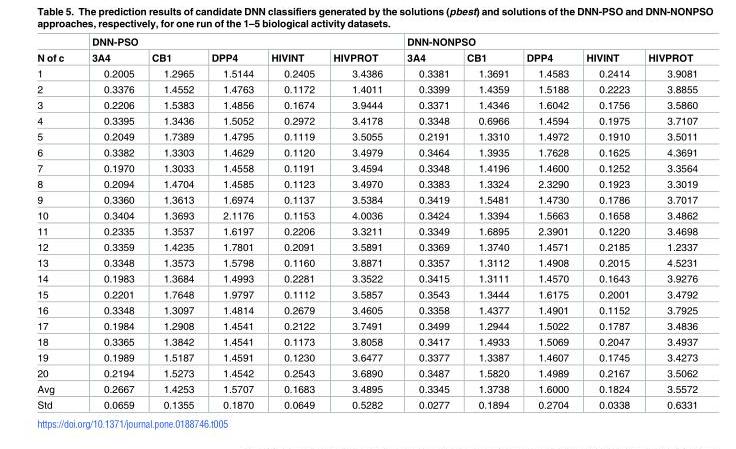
<table><thead><tr><td rowspan="2">N of c</td><td colspan="5">DNN-PSO</td><td colspan="5">DNN-NONPSO</td></tr><tr><td>3A4</td><td>CB1</td><td>DPP4</td><td>HIVINT</td><td>HIVPROT</td><td>3A4</td><td>CB1</td><td>DPP4</td><td>HIVINT</td><td>HIVPROT</td></tr></thead><tbody><tr><td>1</td><td>0.2005</td><td>1.2965</td><td>1.5144</td><td>0.2405</td><td>3.4386</td><td>0.3381</td><td>1.3691</td><td>1.4583</td><td>0.2414</td><td>3.9081</td></tr><tr><td>2</td><td>0.3376</td><td>1.4552</td><td>1.4763</td><td>0.1172</td><td>1.4011</td><td>0.3399</td><td>1.4359</td><td>1.5188</td><td>0.2223</td><td>3.8855</td></tr><tr><td>3</td><td>0.2206</td><td>1.5383</td><td>1.4856</td><td>0.1674</td><td>3.9444</td><td>0.3371</td><td>1.4346</td><td>1.6042</td><td>0.1756</td><td>3.5860</td></tr><tr><td>4</td><td>0.3395</td><td>1.3436</td><td>1.5052</td><td>0.2972</td><td>3.4178</td><td>0.3348</td><td>0.6966</td><td>1.4594</td><td>0.1975</td><td>3.7107</td></tr><tr><td>5</td><td>0.2049</td><td>1.7389</td><td>1.4795</td><td>0.1119</td><td>3.5055</td><td>0.2191</td><td>1.3310</td><td>1.4972</td><td>0.1910</td><td>3.5011</td></tr><tr><td>6</td><td>0.3382</td><td>1.3303</td><td>1.4629</td><td>0.1120</td><td>3.4979</td><td>0.3464</td><td>1.3935</td><td>1.7628</td><td>0.1625</td><td>4.3691</td></tr><tr><td>7</td><td>0.1970</td><td>1.3033</td><td>1.4558</td><td>0.1191</td><td>3.4594</td><td>0.3348</td><td>1.4196</td><td>1.4600</td><td>0.1252</td><td>3.3564</td></tr><tr><td>8</td><td>0.2094</td><td>1.4704</td><td>1.4585</td><td>0.1123</td><td>3.4970</td><td>0.3383</td><td>1.3324</td><td>2.3290</td><td>0.1923</td><td>3.3019</td></tr><tr><td>9</td><td>0.3360</td><td>1.3613</td><td>1.6974</td><td>0.1137</td><td>3.5384</td><td>0.3419</td><td>1.5481</td><td>1.4730</td><td>0.1786</td><td>3.7017</td></tr><tr><td>10</td><td>0.3404</td><td>1.3693</td><td>2.1176</td><td>0.1153</td><td>4.0036</td><td>0.3424</td><td>1.3394</td><td>1.5663</td><td>0.1658</td><td>3.4862</td></tr><tr><td>11</td><td>0.2335</td><td>1.3537</td><td>1.6197</td><td>0.2206</td><td>3.3211</td><td>0.3349</td><td>1.6895</td><td>2.3901</td><td>0.1220</td><td>3.4698</td></tr><tr><td>12</td><td>0.3359</td><td>1.4235</td><td>1.7801</td><td>0.2091</td><td>3.5891</td><td>0.3369</td><td>1.3740</td><td>1.4571</td><td>0.2185</td><td>1.2337</td></tr><tr><td>13</td><td>0.3348</td><td>1.3573</td><td>1.5798</td><td>0.1160</td><td>3.8871</td><td>0.3357</td><td>1.3112</td><td>1.4908</td><td>0.2015</td><td>4.5231</td></tr><tr><td>14</td><td>0.1983</td><td>1.3684</td><td>1.4993</td><td>0.2281</td><td>3.3522</td><td>0.3415</td><td>1.3111</td><td>1.4570</td><td>0.1643</td><td>3.9276</td></tr><tr><td>15</td><td>0.2201</td><td>1.7648</td><td>1.9797</td><td>0.1112</td><td>3.5857</td><td>0.3543</td><td>1.3444</td><td>1.6175</td><td>0.2001</td><td>3.4792</td></tr><tr><td>16</td><td>0.3348</td><td>1.3097</td><td>1.4814</td><td>0.2679</td><td>3.4605</td><td>0.3358</td><td>1.4377</td><td>1.4901</td><td>0.1152</td><td>3.7925</td></tr><tr><td>17</td><td>0.1984</td><td>1.2908</td><td>1.4541</td><td>0.2122</td><td>3.7491</td><td>0.3499</td><td>1.2944</td><td>1.5022</td><td>0.1787</td><td>3.4836</td></tr><tr><td>18</td><td>0.3365</td><td>1.3842</td><td>1.4541</td><td>0.1173</td><td>3.8058</td><td>0.3417</td><td>1.4933</td><td>1.5069</td><td>0.2047</td><td>3.4937</td></tr><tr><td>19</td><td>0.1989</td><td>1.5187</td><td>1.4591</td><td>0.1230</td><td>3.6477</td><td>0.3377</td><td>1.3387</td><td>1.4607</td><td>0.1745</td><td>3.4273</td></tr><tr><td>20</td><td>0.2194</td><td>1.5273</td><td>1.4542</td><td>0.2543</td><td>3.6890</td><td>0.3487</td><td>1.5820</td><td>1.4989</td><td>0.2167</td><td>3.5062</td></tr><tr><td>Avg</td><td>0.2667</td><td>1.4253</td><td>1.5707</td><td>0.1683</td><td>3.4895</td><td>0.3345</td><td>1.3738</td><td>1.6000</td><td>0.1824</td><td>3.5572</td></tr><tr><td>Std</td><td>0.0659</td><td>0.1355</td><td>0.1870</td><td>0.0649</td><td>0.5282</td><td>0.0277</td><td>0.1894</td><td>0.2704</td><td>0.0338</td><td>0.6331</td></tr></tbody></table>